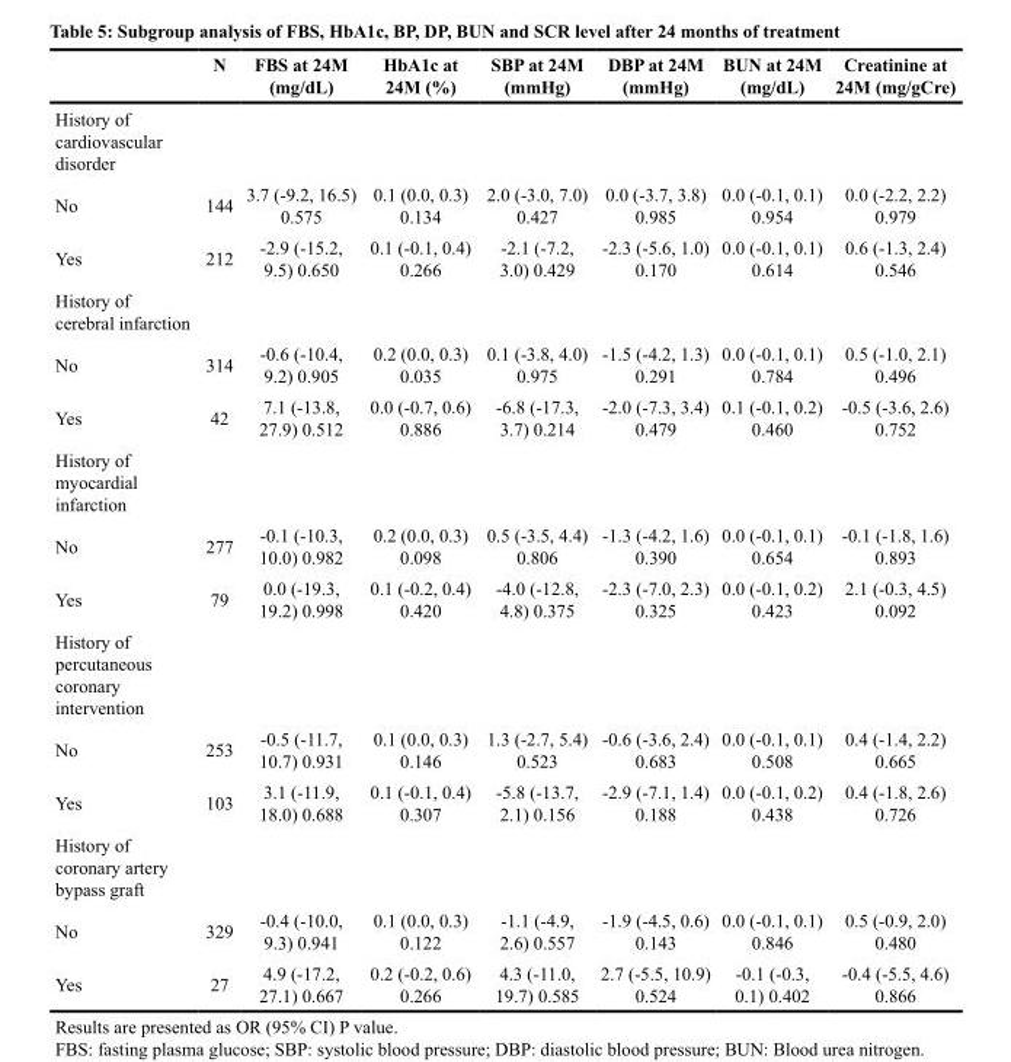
<table><thead><tr><td></td><td>N</td><td>FBS at 24M (mg/dL)</td><td>HbA1c at 24M (%)</td><td>SBP at 24M (mmHg)</td><td>DBP at 24M (mmHg)</td><td>BUN at 24M (mg/dL)</td><td>Creatinine at 24M (mg/gCre)</td></tr></thead><tbody><tr><td colspan="8">History of cardiovascular disorder</td></tr><tr><td>No</td><td>144</td><td>3.7 (-9.2, 16.5) 0.575</td><td>0.1 (0.0, 0.3) 0.134</td><td>2.0 (-3.0, 7.0) 0.427</td><td>0.0 (-3.7, 3.8) 0.985</td><td>0.0 (-0.1, 0.1) 0.954</td><td>0.0 (-2.2, 2.2) 0.979</td></tr><tr><td>Yes</td><td>212</td><td>-2.9 (-15.2, 9.5) 0.650</td><td>0.1 (-0.1, 0.4) 0.266</td><td>-2.1 (-7.2, 3.0) 0.429</td><td>-2.3 (-5.6, 1.0) 0.170</td><td>0.0 (-0.1, 0.1) 0.614</td><td>0.6 (-1.3, 2.4) 0.546</td></tr><tr><td colspan="8">History of cerebral infarction</td></tr><tr><td>No</td><td>314</td><td>-0.6 (-10.4, 9.2) 0.905</td><td>0.2 (0.0, 0.3) 0.035</td><td>0.1 (-3.8, 4.0) 0.975</td><td>-1.5 (-4.2, 1.3) 0.291</td><td>0.0 (-0.1, 0.1) 0.784</td><td>0.5 (-1.0, 2.1) 0.496</td></tr><tr><td>Yes</td><td>42</td><td>7.1 (-13.8, 27.9) 0.512</td><td>0.0 (-0.7, 0.6) 0.886</td><td>-6.8 (-17.3, 3.7) 0.214</td><td>-2.0 (-7.3, 3.4) 0.479</td><td>0.1 (-0.1, 0.2) 0.460</td><td>-0.5 (-3.6, 2.6) 0.752</td></tr><tr><td colspan="8">History of myocardial infarction</td></tr><tr><td>No</td><td>277</td><td>-0.1 (-10.3, 10.0) 0.982</td><td>0.2 (0.0, 0.3) 0.098</td><td>0.5 (-3.5, 4.4) 0.806</td><td>-1.3 (-4.2, 1.6) 0.390</td><td>0.0 (-0.1, 0.1) 0.654</td><td>-0.1 (-1.8, 1.6) 0.893</td></tr><tr><td>Yes</td><td>79</td><td>0.0 (-19.3, 19.2) 0.998</td><td>0.1 (-0.2, 0.4) 0.420</td><td>-4.0 (-12.8, 4.8) 0.375</td><td>-2.3 (-7.0, 2.3) 0.325</td><td>0.0 (-0.1, 0.2) 0.423</td><td>2.1 (-0.3, 4.5) 0.092</td></tr><tr><td colspan="8">History of percutaneous coronary intervention</td></tr><tr><td>No</td><td>253</td><td>-0.5 (-11.7, 10.7) 0.931</td><td>0.1 (0.0, 0.3) 0.146</td><td>1.3 (-2.7, 5.4) 0.523</td><td>-0.6 (-3.6, 2.4) 0.683</td><td>0.0 (-0.1, 0.1) 0.508</td><td>0.4 (-1.4, 2.2) 0.665</td></tr><tr><td>Yes</td><td>103</td><td>3.1 (-11.9, 18.0) 0.688</td><td>0.1 (-0.1, 0.4) 0.307</td><td>-5.8 (-13.7, 2.1) 0.156</td><td>-2.9 (-7.1, 1.4) 0.188</td><td>0.0 (-0.1, 0.2) 0.438</td><td>0.4 (-1.8, 2.6) 0.726</td></tr><tr><td colspan="8">History of coronary artery bypass graft</td></tr><tr><td>No</td><td>329</td><td>-0.4 (-10.0, 9.3) 0.941</td><td>0.1 (0.0, 0.3) 0.122</td><td>-1.1 (-4.9, 2.6) 0.557</td><td>-1.9 (-4.5, 0.6) 0.143</td><td>0.0 (-0.1, 0.1) 0.846</td><td>0.5 (-0.9, 2.0) 0.480</td></tr><tr><td>Yes</td><td>27</td><td>4.9 (-17.2, 27.1) 0.667</td><td>0.2 (-0.2, 0.6) 0.266</td><td>4.3 (-11.0, 19.7) 0.585</td><td>2.7 (-5.5, 10.9) 0.524</td><td>-0.1 (-0.3, 0.1) 0.402</td><td>-0.4 (-5.5, 4.6) 0.866</td></tr></tbody></table>